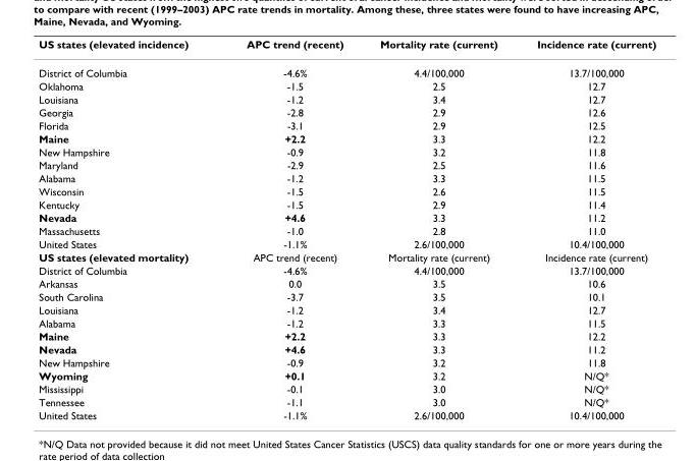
<table><thead><tr><td>US states (elevated incidence)</td><td>APC trend (recent)</td><td>Mortality rate (current)</td><td>Incidence rate (current)</td></tr></thead><tbody><tr><td>District of Columbia</td><td>-4.6%</td><td>4.4/100,000</td><td>13.7/100,000</td></tr><tr><td>Oklahoma</td><td>-1.5</td><td>2.5</td><td>12.7</td></tr><tr><td>Louisiana</td><td>-1.2</td><td>3.4</td><td>12.7</td></tr><tr><td>Georgia</td><td>-2.8</td><td>2.9</td><td>12.6</td></tr><tr><td>Florida</td><td>-3.1</td><td>2.9</td><td>12.5</td></tr><tr><td>Maine</td><td>+2.2</td><td>3.3</td><td>12.2</td></tr><tr><td>New Hampshire</td><td>-0.9</td><td>3.2</td><td>11.8</td></tr><tr><td>Maryland</td><td>-2.9</td><td>2.5</td><td>11.6</td></tr><tr><td>Alabama</td><td>-1.2</td><td>3.3</td><td>11.5</td></tr><tr><td>Wisconsin</td><td>-1.5</td><td>2.6</td><td>11.5</td></tr><tr><td>Kentucky</td><td>-1.5</td><td>2.9</td><td>11.4</td></tr><tr><td>Nevada</td><td>+4.6</td><td>3.3</td><td>11.2</td></tr><tr><td>Massachusetts</td><td>-1.0</td><td>2.8</td><td>11.0</td></tr><tr><td>United States</td><td>-1.1%</td><td>2.6/100,000</td><td>10.4/100,000</td></tr><tr><td>US states (elevated mortality)</td><td>APC trend (recent)</td><td>Mortality rate (current)</td><td>Incidence rate (current)</td></tr><tr><td>District of Columbia</td><td>-4.6%</td><td>4.4/100,000</td><td>13.7/100,000</td></tr><tr><td>Arkansas</td><td>0.0</td><td>3.5</td><td>10.6</td></tr><tr><td>South Carolina</td><td>-3.7</td><td>3.5</td><td>10.1</td></tr><tr><td>Louisiana</td><td>-1.2</td><td>3.4</td><td>12.7</td></tr><tr><td>Alabama</td><td>-1.2</td><td>3.3</td><td>11.5</td></tr><tr><td>Maine</td><td>+2.2</td><td>3.3</td><td>12.2</td></tr><tr><td>Nevada</td><td>+4.6</td><td>3.3</td><td>11.2</td></tr><tr><td>New Hampshire</td><td>-0.9</td><td>3.2</td><td>11.8</td></tr><tr><td>Wyoming</td><td>+0.1</td><td>3.2</td><td>N/Q*</td></tr><tr><td>Mississippi</td><td>-0.1</td><td>3.0</td><td>N/Q*</td></tr><tr><td>Tennessee</td><td>-1.1</td><td>3.0</td><td>N/Q*</td></tr><tr><td>United States</td><td>-1.1%</td><td>2.6/100,000</td><td>10.4/100,000</td></tr></tbody></table>